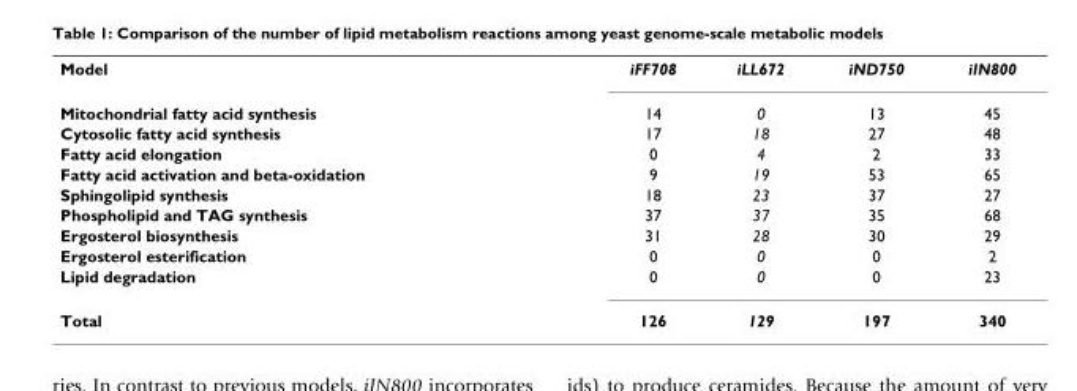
<table><tbody><tr><td>Model</td><td>iFF708</td><td>iLL672</td><td>iND750</td><td>iIN800</td></tr><tr><td>Mitochondrial fatty acid synthesis</td><td>14</td><td>0</td><td>13</td><td>45</td></tr><tr><td>Cytosolic fatty acid synthesis</td><td>17</td><td>18</td><td>27</td><td>48</td></tr><tr><td>Fatty acid elongation</td><td>0</td><td>4</td><td>2</td><td>33</td></tr><tr><td>Fatty acid activation and beta-oxidation</td><td>9</td><td>19</td><td>53</td><td>65</td></tr><tr><td>Sphingolipid synthesis</td><td>18</td><td>23</td><td>37</td><td>27</td></tr><tr><td>Phospholipid and TAG synthesis</td><td>37</td><td>37</td><td>35</td><td>68</td></tr><tr><td>Ergosterol biosynthesis</td><td>31</td><td>28</td><td>30</td><td>29</td></tr><tr><td>Ergosterol esterification</td><td>0</td><td>0</td><td>0</td><td>2</td></tr><tr><td>Lipid degradation</td><td>0</td><td>0</td><td>0</td><td>23</td></tr><tr><td>Total</td><td>126</td><td>129</td><td>197</td><td>340</td></tr></tbody></table>